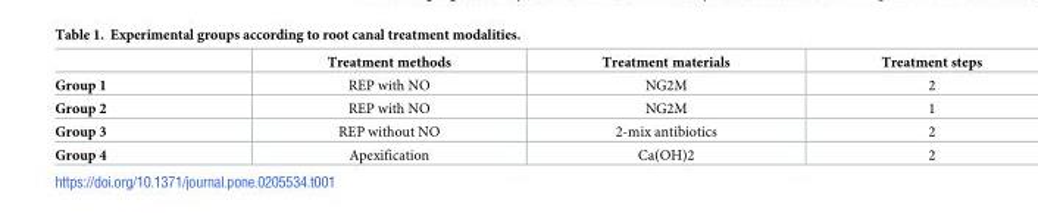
<table><thead><tr><td></td><td>Treatment methods</td><td>Treatment materials</td><td>Treatment steps</td></tr></thead><tbody><tr><td>Group 1</td><td>REP with NO</td><td>NG2M</td><td>2</td></tr><tr><td>Group 2</td><td>REP with NO</td><td>NG2M</td><td>1</td></tr><tr><td>Group 3</td><td>REP without NO</td><td>2-mix antibiotics</td><td>2</td></tr><tr><td>Group 4</td><td>Apexification</td><td>Ca(OH)2</td><td>2</td></tr></tbody></table>